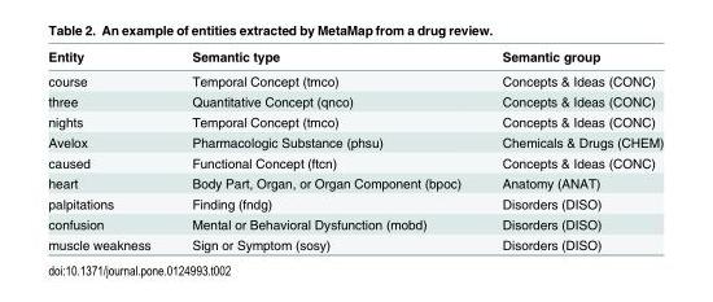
<table><thead><tr><td>Entity</td><td>Semantic type</td><td>Semantic group</td></tr></thead><tbody><tr><td>course</td><td>Temporal Concept (tmco)</td><td>Concepts &amp; Ideas (CONC)</td></tr><tr><td>three</td><td>Quantitative Concept (qnco)</td><td>Concepts &amp; Ideas (CONC)</td></tr><tr><td>nights</td><td>Temporal Concept (tmco)</td><td>Concepts &amp; Ideas (CONC)</td></tr><tr><td>Avelox</td><td>Pharmacologic Substance (phsu)</td><td>Chemicals &amp; Drugs (CHEM)</td></tr><tr><td>caused</td><td>Functional Concept (ftcn)</td><td>Concepts &amp; Ideas (CONC)</td></tr><tr><td>heart</td><td>Body Part, Organ, or Organ Component (bpoc)</td><td>Anatomy (ANAT)</td></tr><tr><td>palpitations</td><td>Finding (fndg)</td><td>Disorders (DISO)</td></tr><tr><td>confusion</td><td>Mental or Behavioral Dysfunction (mobd)</td><td>Disorders (DISO)</td></tr><tr><td>muscle weakness</td><td>Sign or Symptom (sosy)</td><td>Disorders (DISO)</td></tr></tbody></table>